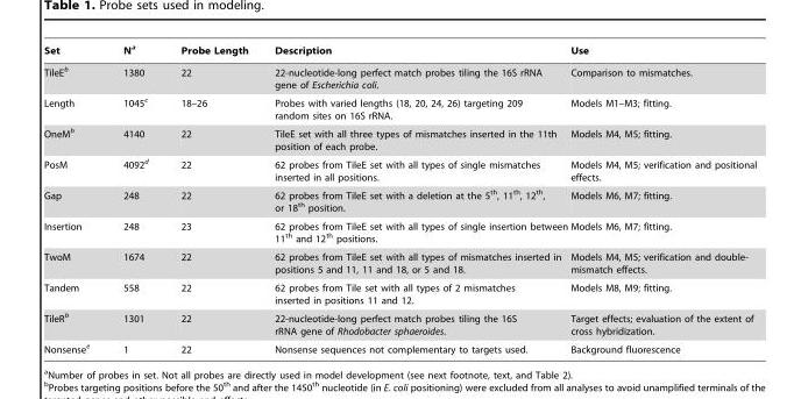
<table><thead><tr><td>Set</td><td>N<sup>a</sup></td><td>Probe Length</td><td>Description</td><td>Use</td></tr></thead><tbody><tr><td>TileE<sup>b</sup></td><td>1380</td><td>22</td><td>22-nucleotide-long perfect match probes tiling the 16S rRNA gene of Escherichia coli.</td><td>Comparison to mismatches.</td></tr><tr><td>Length</td><td>1045<sup>c</sup></td><td>18–26</td><td>Probes with varied lengths (18, 20, 24, 26) targeting 209 random sites on 16S rRNA.</td><td>Models M1–M3; fitting.</td></tr><tr><td>OneM<sup>b</sup></td><td>4140</td><td>22</td><td>TileE set with all three types of mismatches inserted in the 11th position of each probe.</td><td>Models M4, M5; fitting.</td></tr><tr><td>PosM</td><td>4092<sup>d</sup></td><td>22</td><td>62 probes from TileE set with all types of single mismatches inserted in all positions.</td><td>Models M4, M5; verification and positional effects.</td></tr><tr><td>Gap</td><td>248</td><td>22</td><td>62 probes from TileE set with a deletion at the 5<sup>th</sup>, 11<sup>th</sup>, 12<sup>th</sup>, or 18<sup>th</sup> position.</td><td>Models M6, M7; fitting.</td></tr><tr><td>Insertion</td><td>248</td><td>23</td><td>62 probes from TileE set with all types of single insertion between 11<sup>th</sup> and 12<sup>th</sup> positions.</td><td>Models M6, M7; fitting.</td></tr><tr><td>TwoM</td><td>1674</td><td>22</td><td>62 probes from TileE set with all types of mismatches inserted in positions 5 and 11, 11 and 18, or 5 and 18.</td><td>Models M4, M5; verification and double- mismatch effects.</td></tr><tr><td>Tandem</td><td>558</td><td>22</td><td>62 probes from Tile set with all types of 2 mismatches inserted in positions 11 and 12.</td><td>Models M8, M9; fitting.</td></tr><tr><td>TileR<sup>b</sup></td><td>1301</td><td>22</td><td>22-nucleotide-long perfect match probes tiling the 16S rRNA gene of Rhodobacter sphaeroides.</td><td>Target effects; evaluation of the extent of cross hybridization.</td></tr><tr><td>Nonsense<sup>e</sup></td><td>1</td><td>22</td><td>Nonsense sequences not complementary to targets used.</td><td>Background fluorescence</td></tr></tbody></table>